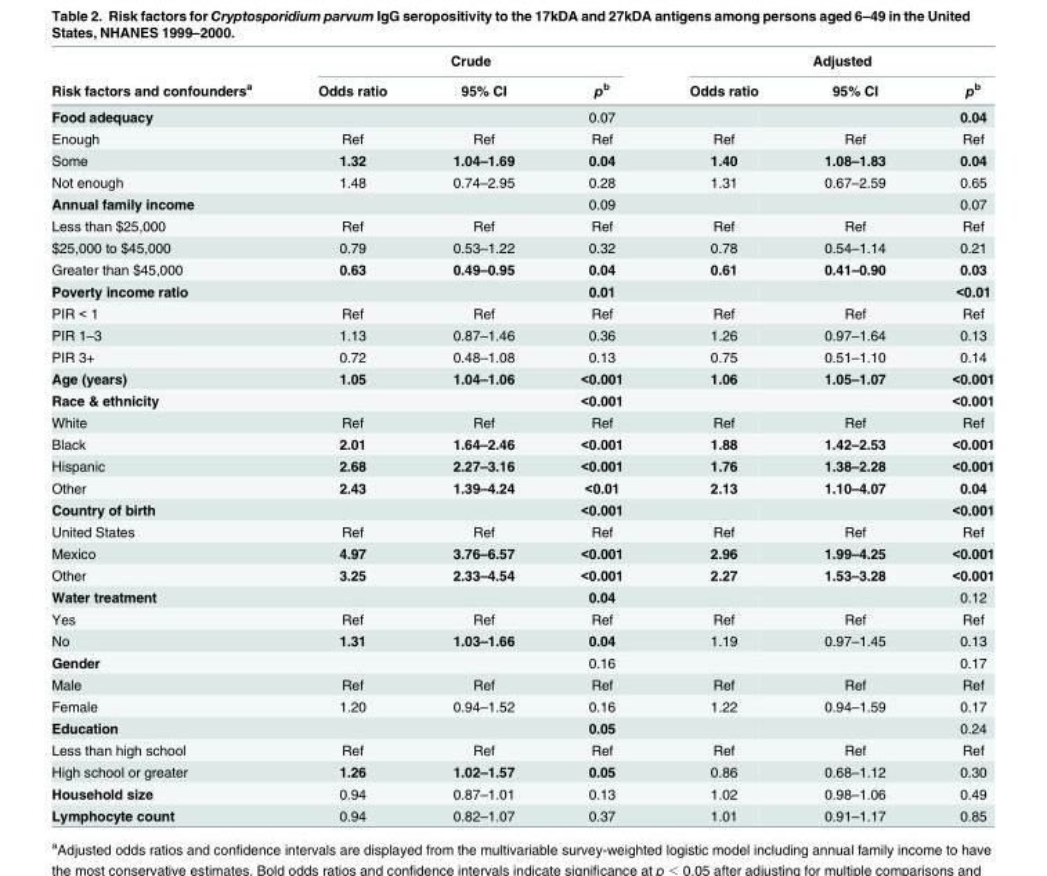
<table><thead><tr><td rowspan="2">Risk factors and confounders<sup>a</sup></td><td colspan="3">Crude</td><td colspan="3">Adjusted</td></tr><tr><td>Odds ratio</td><td>95% CI</td><td>p<sup>b</sup></td><td>Odds ratio</td><td>95% CI</td><td>p<sup>b</sup></td></tr></thead><tbody><tr><td>Food adequacy</td><td></td><td></td><td>0.07</td><td></td><td></td><td>0.04</td></tr><tr><td>Enough</td><td>Ref</td><td>Ref</td><td>Ref</td><td>Ref</td><td>Ref</td><td>Ref</td></tr><tr><td>Some</td><td>1.32</td><td>1.04–1.69</td><td>0.04</td><td>1.40</td><td>1.08–1.83</td><td>0.04</td></tr><tr><td>Not enough</td><td>1.48</td><td>0.74–2.95</td><td>0.28</td><td>1.31</td><td>0.67–2.59</td><td>0.65</td></tr><tr><td>Annual family income</td><td></td><td></td><td>0.09</td><td></td><td></td><td>0.07</td></tr><tr><td>Less than $25,000</td><td>Ref</td><td>Ref</td><td>Ref</td><td>Ref</td><td>Ref</td><td>Ref</td></tr><tr><td>$25,000 to $45,000</td><td>0.79</td><td>0.53–1.22</td><td>0.32</td><td>0.78</td><td>0.54–1.14</td><td>0.21</td></tr><tr><td>Greater than $45,000</td><td>0.63</td><td>0.49–0.95</td><td>0.04</td><td>0.61</td><td>0.41–0.90</td><td>0.03</td></tr><tr><td>Poverty income ratio</td><td></td><td></td><td>0.01</td><td></td><td></td><td>&lt;0.01</td></tr><tr><td>PIR &lt; 1</td><td>Ref</td><td>Ref</td><td>Ref</td><td>Ref</td><td>Ref</td><td>Ref</td></tr><tr><td>PIR 1–3</td><td>1.13</td><td>0.87–1.46</td><td>0.36</td><td>1.26</td><td>0.97–1.64</td><td>0.13</td></tr><tr><td>PIR 3+</td><td>0.72</td><td>0.48–1.08</td><td>0.13</td><td>0.75</td><td>0.51–1.10</td><td>0.14</td></tr><tr><td>Age (years)</td><td>1.05</td><td>1.04–1.06</td><td>&lt;0.001</td><td>1.06</td><td>1.05–1.07</td><td>&lt;0.001</td></tr><tr><td>Race &amp; ethnicity</td><td></td><td></td><td>&lt;0.001</td><td></td><td></td><td>&lt;0.001</td></tr><tr><td>White</td><td>Ref</td><td>Ref</td><td>Ref</td><td>Ref</td><td>Ref</td><td>Ref</td></tr><tr><td>Black</td><td>2.01</td><td>1.64–2.46</td><td>&lt;0.001</td><td>1.88</td><td>1.42–2.53</td><td>&lt;0.001</td></tr><tr><td>Hispanic</td><td>2.68</td><td>2.27–3.16</td><td>&lt;0.001</td><td>1.76</td><td>1.38–2.28</td><td>&lt;0.001</td></tr><tr><td>Other</td><td>2.43</td><td>1.39–4.24</td><td>&lt;0.01</td><td>2.13</td><td>1.10–4.07</td><td>0.04</td></tr><tr><td>Country of birth</td><td></td><td></td><td>&lt;0.001</td><td></td><td></td><td>&lt;0.001</td></tr><tr><td>United States</td><td>Ref</td><td>Ref</td><td>Ref</td><td>Ref</td><td>Ref</td><td>Ref</td></tr><tr><td>Mexico</td><td>4.97</td><td>3.76–6.57</td><td>&lt;0.001</td><td>2.96</td><td>1.99–4.25</td><td>&lt;0.001</td></tr><tr><td>Other</td><td>3.25</td><td>2.33–4.54</td><td>&lt;0.001</td><td>2.27</td><td>1.53–3.28</td><td>&lt;0.001</td></tr><tr><td>Water treatment</td><td></td><td></td><td>0.04</td><td></td><td></td><td>0.12</td></tr><tr><td>Yes</td><td>Ref</td><td>Ref</td><td>Ref</td><td>Ref</td><td>Ref</td><td>Ref</td></tr><tr><td>No</td><td>1.31</td><td>1.03–1.66</td><td>0.04</td><td>1.19</td><td>0.97–1.45</td><td>0.13</td></tr><tr><td>Gender</td><td></td><td></td><td>0.16</td><td></td><td></td><td>0.17</td></tr><tr><td>Male</td><td>Ref</td><td>Ref</td><td>Ref</td><td>Ref</td><td>Ref</td><td>Ref</td></tr><tr><td>Female</td><td>1.20</td><td>0.94–1.52</td><td>0.16</td><td>1.22</td><td>0.94–1.59</td><td>0.17</td></tr><tr><td>Education</td><td></td><td></td><td>0.05</td><td></td><td></td><td>0.24</td></tr><tr><td>Less than high school</td><td>Ref</td><td>Ref</td><td>Ref</td><td>Ref</td><td>Ref</td><td>Ref</td></tr><tr><td>High school or greater</td><td>1.26</td><td>1.02–1.57</td><td>0.05</td><td>0.86</td><td>0.68–1.12</td><td>0.30</td></tr><tr><td>Household size</td><td>0.94</td><td>0.87–1.01</td><td>0.13</td><td>1.02</td><td>0.98–1.06</td><td>0.49</td></tr><tr><td>Lymphocyte count</td><td>0.94</td><td>0.82–1.07</td><td>0.37</td><td>1.01</td><td>0.91–1.17</td><td>0.85</td></tr></tbody></table>